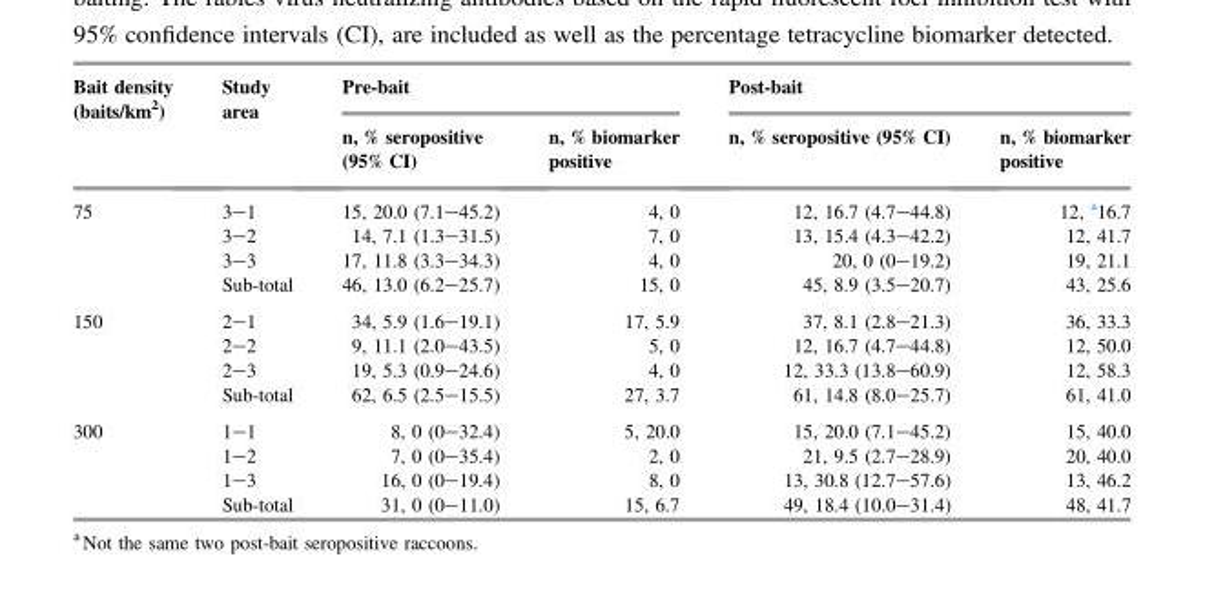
<table><thead><tr><td rowspan="2">Bait density (baits/km<sup>2</sup>)</td><td rowspan="2">Study area</td><td colspan="2">Pre-bait</td><td colspan="2">Post-bait</td></tr><tr><td>n, % seropositive (95% CI)</td><td>n, % biomarker positive</td><td>n, % seropositive (95% CI)</td><td>n, % biomarker positive</td></tr></thead><tbody><tr><td rowspan="4">75</td><td>3–1</td><td>15, 20.0 (7.1–45.2)</td><td>4, 0</td><td>12, 16.7 (4.7–44.8)</td><td>12, a16.7</td></tr><tr><td>3–2</td><td>14, 7.1 (1.3–31.5)</td><td>7, 0</td><td>13, 15.4 (4.3–42.2)</td><td>12, 41.7</td></tr><tr><td>3–3</td><td>17, 11.8 (3.3–34.3)</td><td>4, 0</td><td>20, 0 (0–19.2)</td><td>19, 21.1</td></tr><tr><td>Sub-total</td><td>46, 13.0 (6.2–25.7)</td><td>15, 0</td><td>45, 8.9 (3.5–20.7)</td><td>43, 25.6</td></tr><tr><td rowspan="4">150</td><td>2–1</td><td>34, 5.9 (1.6–19.1)</td><td>17, 5.9</td><td>37, 8.1 (2.8–21.3)</td><td>36, 33.3</td></tr><tr><td>2–2</td><td>9, 11.1 (2.0–43.5)</td><td>5, 0</td><td>12, 16.7 (4.7–44.8)</td><td>12, 50.0</td></tr><tr><td>2–3</td><td>19, 5.3 (0.9–24.6)</td><td>4, 0</td><td>12, 33.3 (13.8–60.9)</td><td>12, 58.3</td></tr><tr><td>Sub-total</td><td>62, 6.5 (2.5–15.5)</td><td>27, 3.7</td><td>61, 14.8 (8.0–25.7)</td><td>61, 41.0</td></tr><tr><td rowspan="4">300</td><td>1–1</td><td>8, 0 (0–32.4)</td><td>5, 20.0</td><td>15, 20.0 (7.1–45.2)</td><td>15, 40.0</td></tr><tr><td>1–2</td><td>7, 0 (0–35.4)</td><td>2, 0</td><td>21, 9.5 (2.7–28.9)</td><td>20, 40.0</td></tr><tr><td>1–3</td><td>16, 0 (0–19.4)</td><td>8, 0</td><td>13, 30.8 (12.7–57.6)</td><td>13, 46.2</td></tr><tr><td>Sub-total</td><td>31, 0 (0–11.0)</td><td>15, 6.7</td><td>49, 18.4 (10.0–31.4)</td><td>48, 41.7</td></tr></tbody></table>